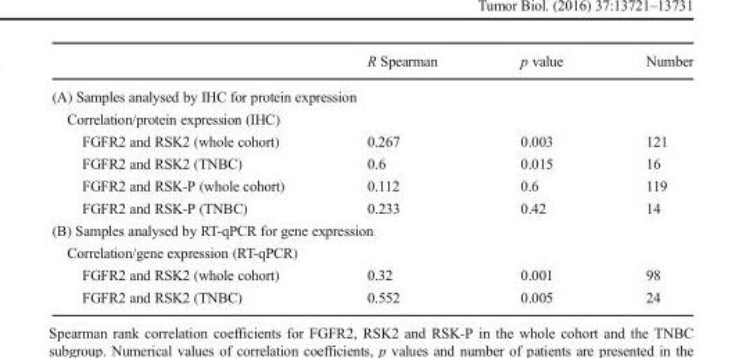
<table><thead><tr><td></td><td>R Spearman</td><td>p value</td><td>Number</td></tr></thead><tbody><tr><td colspan="4">(A) Samples analysed by IHC for protein expression</td></tr><tr><td colspan="4">Correlation/protein expression (IHC)</td></tr><tr><td>FGFR2 and RSK2 (whole cohort)</td><td>0.267</td><td>0.003</td><td>121</td></tr><tr><td>FGFR2 and RSK2 (TNBC)</td><td>0.6</td><td>0.015</td><td>16</td></tr><tr><td>FGFR2 and RSK-P (whole cohort)</td><td>0.112</td><td>0.6</td><td>119</td></tr><tr><td>FGFR2 and RSK-P (TNBC)</td><td>0.233</td><td>0.42</td><td>14</td></tr><tr><td colspan="4">(B) Samples analysed by RT-qPCR for gene expression</td></tr><tr><td colspan="4">Correlation/gene expression (RT-qPCR)</td></tr><tr><td>FGFR2 and RSK2 (whole cohort)</td><td>0.32</td><td>0.001</td><td>98</td></tr><tr><td>FGFR2 and RSK2 (TNBC)</td><td>0.552</td><td>0.005</td><td>24</td></tr></tbody></table>